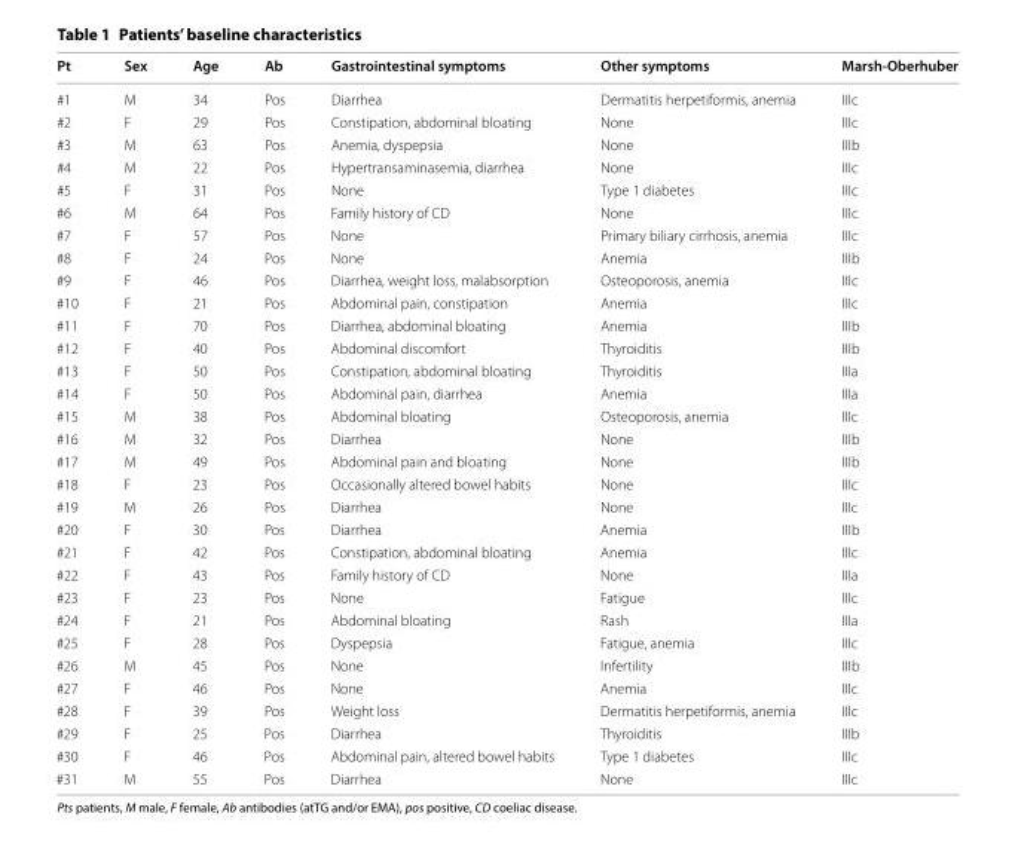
<table><thead><tr><td>Pt</td><td>Sex</td><td>Age</td><td>Ab</td><td>Gastrointestinal symptoms</td><td>Other symptoms</td><td>Marsh‑Oberhuber</td></tr></thead><tbody><tr><td>#1</td><td>M</td><td>34</td><td>Pos</td><td>Diarrhea</td><td>Dermatitis herpetiformis, anemia</td><td>IIIc</td></tr><tr><td>#2</td><td>F</td><td>29</td><td>Pos</td><td>Constipation, abdominal bloating</td><td>None</td><td>IIIc</td></tr><tr><td>#3</td><td>M</td><td>63</td><td>Pos</td><td>Anemia, dyspepsia</td><td>None</td><td>IIIb</td></tr><tr><td>#4</td><td>M</td><td>22</td><td>Pos</td><td>Hypertransaminasemia, diarrhea</td><td>None</td><td>IIIc</td></tr><tr><td>#5</td><td>F</td><td>31</td><td>Pos</td><td>None</td><td>Type 1 diabetes</td><td>IIIc</td></tr><tr><td>#6</td><td>M</td><td>64</td><td>Pos</td><td>Family history of CD</td><td>None</td><td>IIIc</td></tr><tr><td>#7</td><td>F</td><td>57</td><td>Pos</td><td>None</td><td>Primary biliary cirrhosis, anemia</td><td>IIIc</td></tr><tr><td>#8</td><td>F</td><td>24</td><td>Pos</td><td>None</td><td>Anemia</td><td>IIIb</td></tr><tr><td>#9</td><td>F</td><td>46</td><td>Pos</td><td>Diarrhea, weight loss, malabsorption</td><td>Osteoporosis, anemia</td><td>IIIc</td></tr><tr><td>#10</td><td>F</td><td>21</td><td>Pos</td><td>Abdominal pain, constipation</td><td>Anemia</td><td>IIIc</td></tr><tr><td>#11</td><td>F</td><td>70</td><td>Pos</td><td>Diarrhea, abdominal bloating</td><td>Anemia</td><td>IIIb</td></tr><tr><td>#12</td><td>F</td><td>40</td><td>Pos</td><td>Abdominal discomfort</td><td>Thyroiditis</td><td>IIIb</td></tr><tr><td>#13</td><td>F</td><td>50</td><td>Pos</td><td>Constipation, abdominal bloating</td><td>Thyroiditis</td><td>IIIa</td></tr><tr><td>#14</td><td>F</td><td>50</td><td>Pos</td><td>Abdominal pain, diarrhea</td><td>Anemia</td><td>IIIa</td></tr><tr><td>#15</td><td>M</td><td>38</td><td>Pos</td><td>Abdominal bloating</td><td>Osteoporosis, anemia</td><td>IIIc</td></tr><tr><td>#16</td><td>M</td><td>32</td><td>Pos</td><td>Diarrhea</td><td>None</td><td>IIIb</td></tr><tr><td>#17</td><td>M</td><td>49</td><td>Pos</td><td>Abdominal pain and bloating</td><td>None</td><td>IIIb</td></tr><tr><td>#18</td><td>F</td><td>23</td><td>Pos</td><td>Occasionally altered bowel habits</td><td>None</td><td>IIIc</td></tr><tr><td>#19</td><td>M</td><td>26</td><td>Pos</td><td>Diarrhea</td><td>None</td><td>IIIc</td></tr><tr><td>#20</td><td>F</td><td>30</td><td>Pos</td><td>Diarrhea</td><td>Anemia</td><td>IIIb</td></tr><tr><td>#21</td><td>F</td><td>42</td><td>Pos</td><td>Constipation, abdominal bloating</td><td>Anemia</td><td>IIIc</td></tr><tr><td>#22</td><td>F</td><td>43</td><td>Pos</td><td>Family history of CD</td><td>None</td><td>IIIa</td></tr><tr><td>#23</td><td>F</td><td>23</td><td>Pos</td><td>None</td><td>Fatigue</td><td>IIIc</td></tr><tr><td>#24</td><td>F</td><td>21</td><td>Pos</td><td>Abdominal bloating</td><td>Rash</td><td>IIIa</td></tr><tr><td>#25</td><td>F</td><td>28</td><td>Pos</td><td>Dyspepsia</td><td>Fatigue, anemia</td><td>IIIc</td></tr><tr><td>#26</td><td>M</td><td>45</td><td>Pos</td><td>None</td><td>Infertility</td><td>IIIb</td></tr><tr><td>#27</td><td>F</td><td>46</td><td>Pos</td><td>None</td><td>Anemia</td><td>IIIc</td></tr><tr><td>#28</td><td>F</td><td>39</td><td>Pos</td><td>Weight loss</td><td>Dermatitis herpetiformis, anemia</td><td>IIIc</td></tr><tr><td>#29</td><td>F</td><td>25</td><td>Pos</td><td>Diarrhea</td><td>Thyroiditis</td><td>IIIb</td></tr><tr><td>#30</td><td>F</td><td>46</td><td>Pos</td><td>Abdominal pain, altered bowel habits</td><td>Type 1 diabetes</td><td>IIIc</td></tr><tr><td>#31</td><td>M</td><td>55</td><td>Pos</td><td>Diarrhea</td><td>None</td><td>IIIc</td></tr></tbody></table>